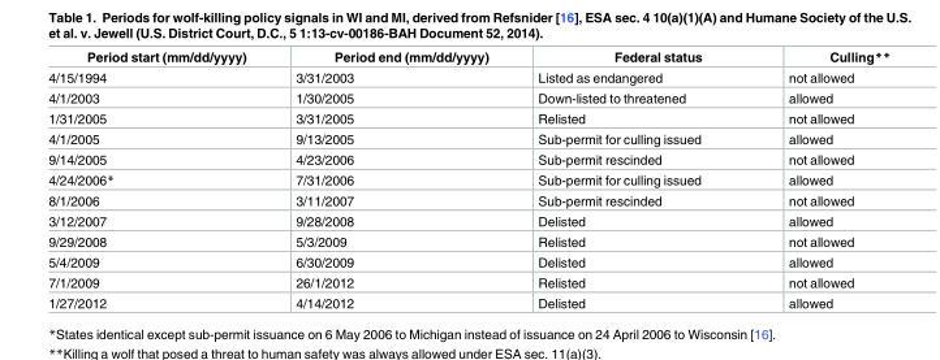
<table><thead><tr><td>Period start (mm/dd/yyyy)</td><td>Period end (mm/dd/yyyy)</td><td>Federal status</td><td>Culling**</td></tr></thead><tbody><tr><td>4/15/1994</td><td>3/31/2003</td><td>Listed as endangered</td><td>not allowed</td></tr><tr><td>4/1/2003</td><td>1/30/2005</td><td>Down-listed to threatened</td><td>allowed</td></tr><tr><td>1/31/2005</td><td>3/31/2005</td><td>Relisted</td><td>not allowed</td></tr><tr><td>4/1/2005</td><td>9/13/2005</td><td>Sub-permit for culling issued</td><td>allowed</td></tr><tr><td>9/14/2005</td><td>4/23/2006</td><td>Sub-permit rescinded</td><td>not allowed</td></tr><tr><td>4/24/2006*</td><td>7/31/2006</td><td>Sub-permit for culling issued</td><td>allowed</td></tr><tr><td>8/1/2006</td><td>3/11/2007</td><td>Sub-permit rescinded</td><td>not allowed</td></tr><tr><td>3/12/2007</td><td>9/28/2008</td><td>Delisted</td><td>allowed</td></tr><tr><td>9/29/2008</td><td>5/3/2009</td><td>Relisted</td><td>not allowed</td></tr><tr><td>5/4/2009</td><td>6/30/2009</td><td>Delisted</td><td>allowed</td></tr><tr><td>7/1/2009</td><td>26/1/2012</td><td>Relisted</td><td>not allowed</td></tr><tr><td>1/27/2012</td><td>4/14/2012</td><td>Delisted</td><td>allowed</td></tr></tbody></table>